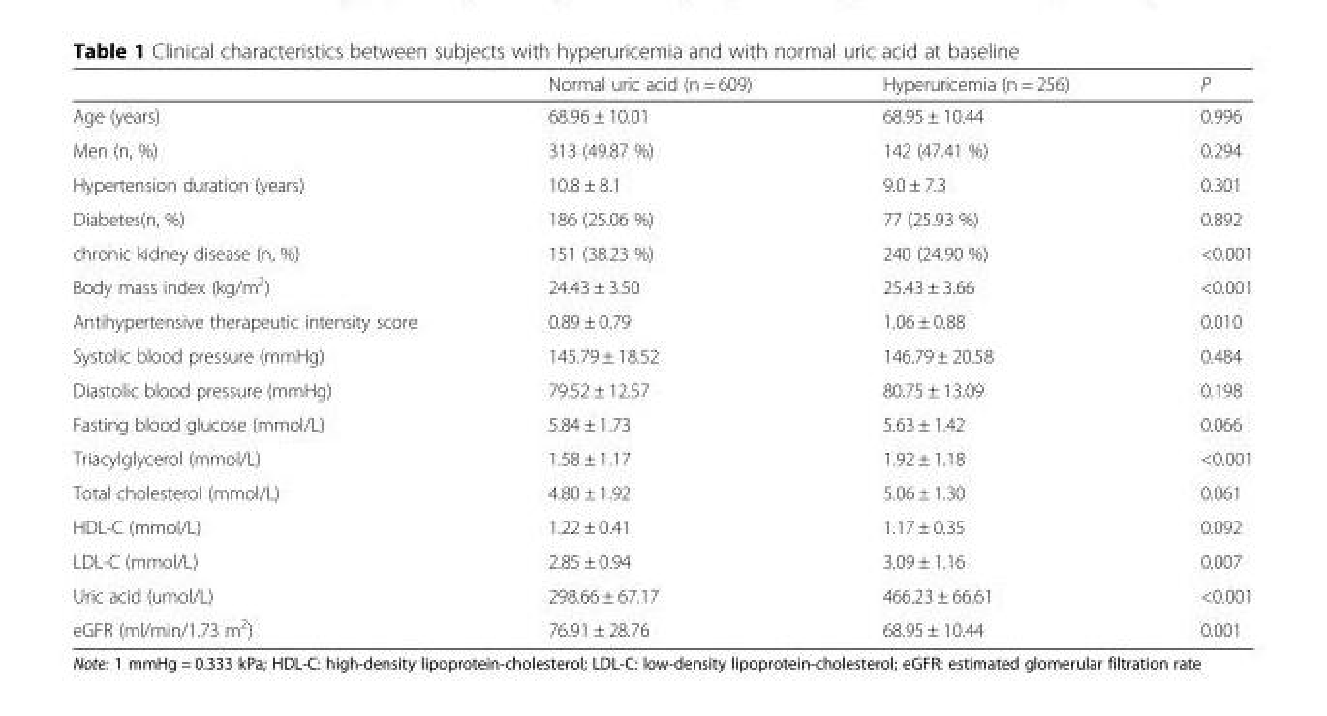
<table><thead><tr><td></td><td>Normal uric acid (n = 609)</td><td>Hyperuricemia (n = 256)</td><td>P</td></tr></thead><tbody><tr><td>Age (years)</td><td>68.96 ± 10.01</td><td>68.95 ± 10.44</td><td>0.996</td></tr><tr><td>Men (n, %)</td><td>313 (49.87 %)</td><td>142 (47.41 %)</td><td>0.294</td></tr><tr><td>Hypertension duration (years)</td><td>10.8 ± 8.1</td><td>9.0 ± 7.3</td><td>0.301</td></tr><tr><td>Diabetes(n, %)</td><td>186 (25.06 %)</td><td>77 (25.93 %)</td><td>0.892</td></tr><tr><td>chronic kidney disease (n, %)</td><td>151 (38.23 %)</td><td>240 (24.90 %)</td><td>&lt;0.001</td></tr><tr><td>Body mass index (kg/m<sup>2</sup>)</td><td>24.43 ± 3.50</td><td>25.43 ± 3.66</td><td>&lt;0.001</td></tr><tr><td>Antihypertensive therapeutic intensity score</td><td>0.89 ± 0.79</td><td>1.06 ± 0.88</td><td>0.010</td></tr><tr><td>Systolic blood pressure (mmHg)</td><td>145.79 ± 18.52</td><td>146.79 ± 20.58</td><td>0.484</td></tr><tr><td>Diastolic blood pressure (mmHg)</td><td>79.52 ± 12.57</td><td>80.75 ± 13.09</td><td>0.198</td></tr><tr><td>Fasting blood glucose (mmol/L)</td><td>5.84 ± 1.73</td><td>5.63 ± 1.42</td><td>0.066</td></tr><tr><td>Triacylglycerol (mmol/L)</td><td>1.58 ± 1.17</td><td>1.92 ± 1.18</td><td>&lt;0.001</td></tr><tr><td>Total cholesterol (mmol/L)</td><td>4.80 ± 1.92</td><td>5.06 ± 1.30</td><td>0.061</td></tr><tr><td>HDL-C (mmol/L)</td><td>1.22 ± 0.41</td><td>1.17 ± 0.35</td><td>0.092</td></tr><tr><td>LDL-C (mmol/L)</td><td>2.85 ± 0.94</td><td>3.09 ± 1.16</td><td>0.007</td></tr><tr><td>Uric acid (umol/L)</td><td>298.66 ± 67.17</td><td>466.23 ± 66.61</td><td>&lt;0.001</td></tr><tr><td>eGFR (ml/min/1.73 m<sup>2</sup>)</td><td>76.91 ± 28.76</td><td>68.95 ± 10.44</td><td>0.001</td></tr></tbody></table>